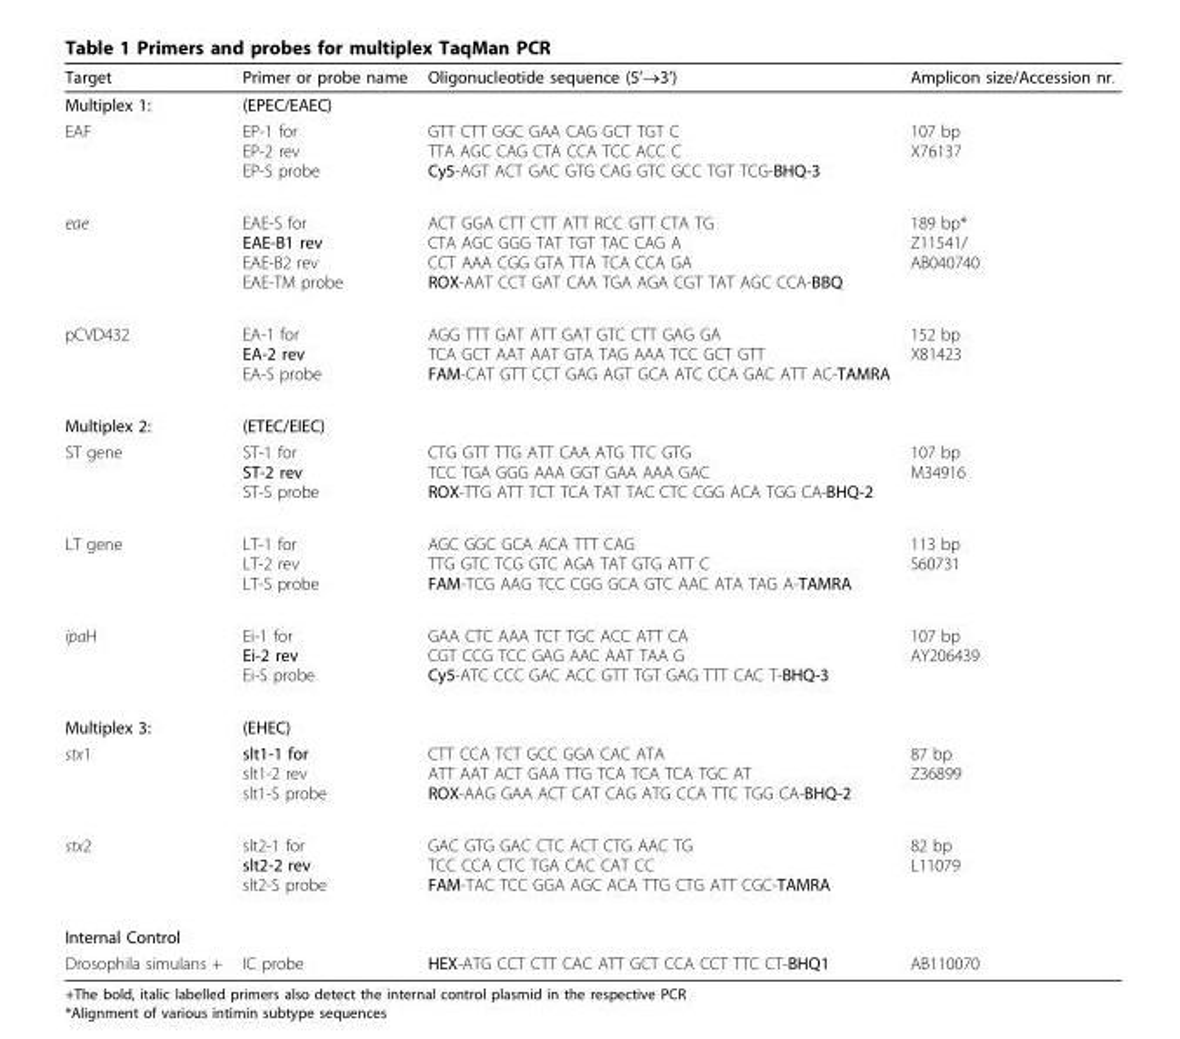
<table><thead><tr><td>Target</td><td>Primer or probe name</td><td>Oligonucleotide sequence (5’→3’)</td><td>Amplicon size/Accession nr.</td></tr></thead><tbody><tr><td>Multiplex 1:</td><td>(EPEC/EAEC)</td><td></td><td></td></tr><tr><td>EAF</td><td>EP-1 for EP-2 rev EP-S probe</td><td>GTT CTT GGC GAA CAG GCT TGT C TTA AGC CAG CTA CCA TCC ACC C Cy5-AGT ACT GAC GTG CAG GTC GCC TGT TCG-BHQ-3</td><td>107 bp X76137</td></tr><tr><td>eae</td><td>EAE-S for EAE-B1 rev EAE-B2 rev EAE-TM probe</td><td>ACT GGA CTT CTT ATT RCC GTT CTA TG CTA AGC GGG TAT TGT TAC CAG A CCT AAA CGG GTA TTA TCA CCA GA ROX-AAT CCT GAT CAA TGA AGA CGT TAT AGC CCA-BBQ</td><td>189 bp* Z11541/ AB040740</td></tr><tr><td>pCVD432</td><td>EA-1 for EA-2 rev EA-S probe</td><td>AGG TTT GAT ATT GAT GTC CTT GAG GA TCA GCT AAT AAT GTA TAG AAA TCC GCT GTT FAM-CAT GTT CCT GAG AGT GCA ATC CCA GAC ATT AC-TAMRA</td><td>152 bp X81423</td></tr><tr><td>Multiplex 2:</td><td>(ETEC/EIEC)</td><td></td><td></td></tr><tr><td>ST gene</td><td>ST-1 for ST-2 rev ST-S probe</td><td>CTG GTT TTG ATT CAA ATG TTC GTG TCC TGA GGG AAA GGT GAA AAA GAC ROX-TTG ATT TCT TCA TAT TAC CTC CGG ACA TGG CA-BHQ-2</td><td>107 bp M34916</td></tr><tr><td>LT gene</td><td>LT-1 for LT-2 rev LT-S probe</td><td>AGC GGC GCA ACA TTT CAG TTG GTC TCG GTC AGA TAT GTG ATT C FAM-TCG AAG TCC CGG GCA GTC AAC ATA TAG A-TAMRA</td><td>113 bp S60731</td></tr><tr><td>ipaH</td><td>Ei-1 for Ei-2 rev Ei-S probe</td><td>GAA CTC AAA TCT TGC ACC ATT CA CGT CCG TCC GAG AAC AAT TAA G Cy5-ATC CCC GAC ACC GTT TGT GAG TTT CAC T-BHQ-3</td><td>107 bp AY206439</td></tr><tr><td>Multiplex 3:</td><td>(EHEC)</td><td></td><td></td></tr><tr><td>stx1</td><td>slt1-1 for slt1-2 rev slt1-S probe</td><td>CTT CCA TCT GCC GGA CAC ATA ATT AAT ACT GAA TTG TCA TCA TCA TGC AT ROX-AAG GAA ACT CAT CAG ATG CCA TTC TGG CA-BHQ-2</td><td>87 bp Z36899</td></tr><tr><td>stx2</td><td>slt2-1 for slt2-2 rev slt2-S probe</td><td>GAC GTG GAC CTC ACT CTG AAC TG TCC CCA CTC TGA CAC CAT CC FAM-TAC TCC GGA AGC ACA TTG CTG ATT CGC-TAMRA</td><td>82 bp L11079</td></tr><tr><td colspan="4">Internal Control</td></tr><tr><td>Drosophila simulans +</td><td>IC probe</td><td>HEX-ATG CCT CTT CAC ATT GCT CCA CCT TTC CT-BHQ1</td><td>AB110070</td></tr></tbody></table>